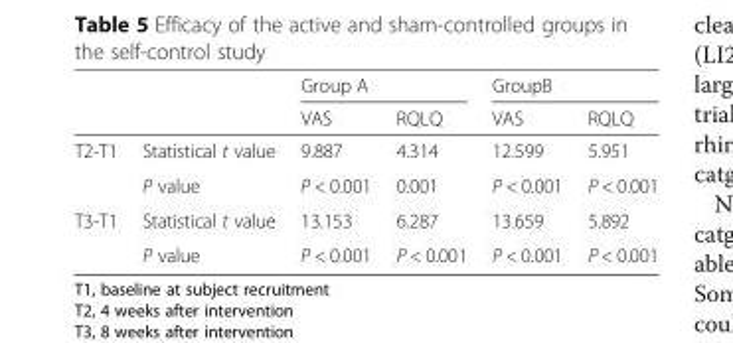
<table><thead><tr><td rowspan="2"></td><td rowspan="2"></td><td colspan="2">Group A</td><td colspan="2">GroupB</td></tr><tr><td>VAS</td><td>RQLQ</td><td>VAS</td><td>RQLQ</td></tr></thead><tbody><tr><td rowspan="2">T2-T1</td><td>Statistical t value</td><td>9.887</td><td>4.314</td><td>12.599</td><td>5.951</td></tr><tr><td>P value</td><td>P &lt; 0.001</td><td>0.001</td><td>P &lt; 0.001</td><td>P &lt; 0.001</td></tr><tr><td rowspan="2">T3-T1</td><td>Statistical t value</td><td>13.153</td><td>6.287</td><td>13.659</td><td>5.892</td></tr><tr><td>P value</td><td>P &lt; 0.001</td><td>P &lt; 0.001</td><td>P &lt; 0.001</td><td>P &lt; 0.001</td></tr></tbody></table>